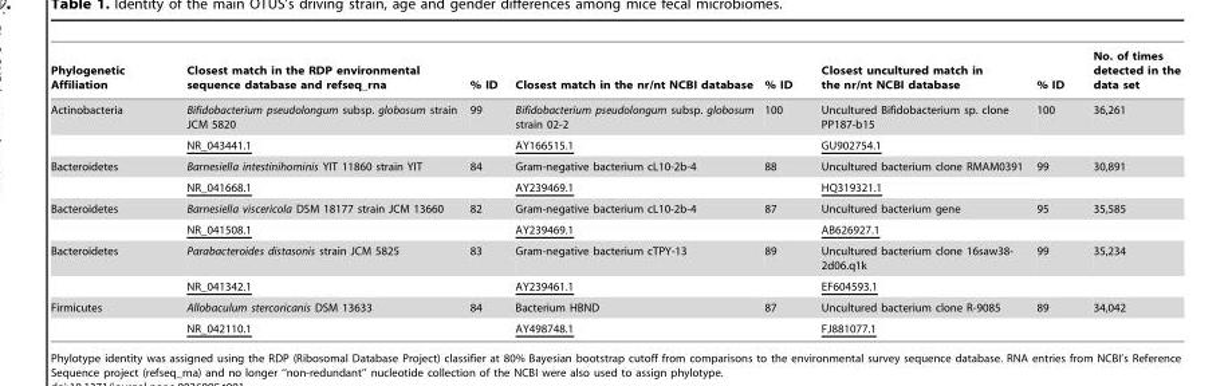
<table><thead><tr><td>Phylogenetic Affiliation</td><td>Closest match in the RDP environmental sequence database and refseq_rna</td><td>% ID</td><td>Closest match in the nr/nt NCBI database</td><td>% ID</td><td>Closest uncultured match in the nr/nt NCBI database</td><td>% ID</td><td>No. of times detected in the data set</td></tr></thead><tbody><tr><td rowspan="2">Actinobacteria</td><td>Bifidobacterium pseudolongum subsp. globosum strain JCM 5820</td><td>99</td><td>Bifidobacterium pseudolongum subsp. globosum strain 02-2</td><td>100</td><td>Uncultured Bifidobacterium sp. clone PP187-b15</td><td>100</td><td>36,261</td></tr><tr><td>NR_043441.1</td><td></td><td>AY166515.1</td><td></td><td>GU902754.1</td><td></td><td></td></tr><tr><td rowspan="2">Bacteroidetes</td><td>Barnesiella intestinihominis YIT 11860 strain YIT</td><td>84</td><td>Gram-negative bacterium cL10-2b-4</td><td>88</td><td>Uncultured bacterium clone RMAM0391</td><td>99</td><td>30,891</td></tr><tr><td>NR_041668.1</td><td></td><td>AY239469.1</td><td></td><td>HQ319321.1</td><td></td><td></td></tr><tr><td rowspan="2">Bacteroidetes</td><td>Barnesiella viscericola DSM 18177 strain JCM 13660</td><td>82</td><td>Gram-negative bacterium cL10-2b-4</td><td>87</td><td>Uncultured bacterium gene</td><td>95</td><td>35,585</td></tr><tr><td>NR_041508.1</td><td></td><td>AY239469.1</td><td></td><td>AB626927.1</td><td></td><td></td></tr><tr><td rowspan="2">Bacteroidetes</td><td>Parabacteroides distasonis strain JCM 5825</td><td>83</td><td>Gram-negative bacterium cTPY-13</td><td>89</td><td>Uncultured bacterium clone 16saw38- 2d06.q1k</td><td>99</td><td>35,234</td></tr><tr><td>NR_041342.1</td><td></td><td>AY239461.1</td><td></td><td>EF604593.1</td><td></td><td></td></tr><tr><td rowspan="2">Firmicutes</td><td>Allobaculum stercoricanis DSM 13633</td><td>84</td><td>Bacterium HBND</td><td>87</td><td>Uncultured bacterium clone R-9085</td><td>89</td><td>34,042</td></tr><tr><td>NR_042110.1</td><td></td><td>AY498748.1</td><td></td><td>FJ881077.1</td><td></td><td></td></tr></tbody></table>